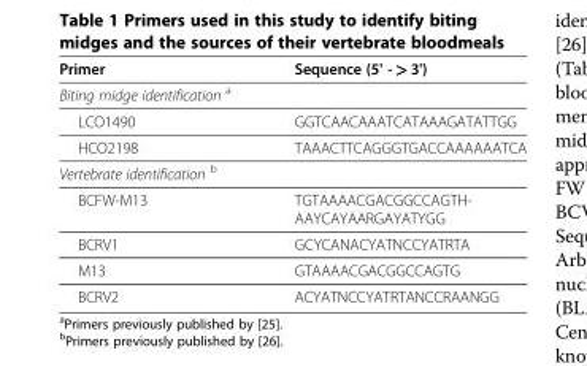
<table><thead><tr><td>Primer</td><td>Sequence (5&#x27; - &gt;&gt;&gt;&gt; 3&#x27;)</td></tr></thead><tbody><tr><td colspan="2">Biting midge identification <sup>a</sup></td></tr><tr><td>LCO1490</td><td>GGTCAACAAATCATAAAGATATTGG</td></tr><tr><td>HCO2198</td><td>TAAACTTCAGGGTGACCAAAAAATCA</td></tr><tr><td colspan="2">Vertebrate identification <sup>b</sup></td></tr><tr><td>BCFW-M13</td><td>TGTAAAACGACGGCCAGTH- AAYCAYAARGAYATYGG</td></tr><tr><td>BCRV1</td><td>GCYCANACYATNCCYATRTA</td></tr><tr><td>M13</td><td>GTAAAACGACGGCCAGTG</td></tr><tr><td>BCRV2</td><td>ACYATNCCYATRTANCCRAANGG</td></tr></tbody></table>